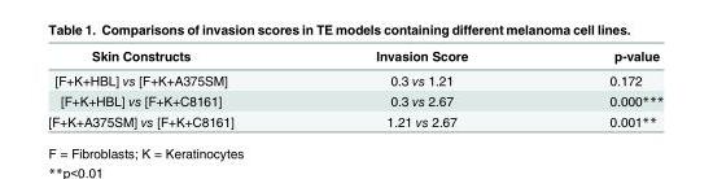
<table><thead><tr><td>Skin Constructs</td><td>Invasion Score</td><td>p-value</td></tr></thead><tbody><tr><td>[F+K+HBL] vs [F+K+A375SM]</td><td>0.3 vs 1.21</td><td>0.172</td></tr><tr><td>[F+K+HBL] vs [F+K+C8161]</td><td>0.3 vs 2.67</td><td>0.000***</td></tr><tr><td>[F+K+A375SM] vs [F+K+C8161]</td><td>1.21 vs 2.67</td><td>0.001**</td></tr></tbody></table>